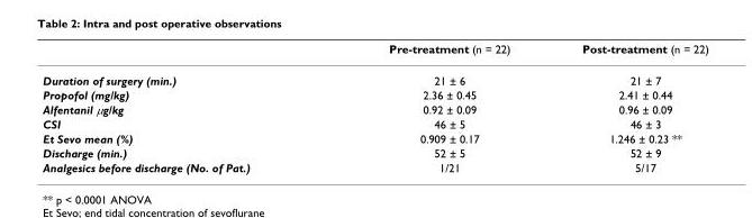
<table><thead><tr><td></td><td>Pre-treatment (n = 22)</td><td>Post-treatment (n = 22)</td></tr></thead><tbody><tr><td>Duration of surgery (min.)</td><td>21 ± 6</td><td>21 ± 7</td></tr><tr><td>Propofol (mg/kg)</td><td>2.36 ± 0.45</td><td>2.41 ± 0.44</td></tr><tr><td>Alfentanil μg/kg</td><td>0.92 ± 0.09</td><td>0.96 ± 0.09</td></tr><tr><td>CSI</td><td>46 ± 5</td><td>46 ± 3</td></tr><tr><td>Et Sevo mean (%)</td><td>0.909 ± 0.17</td><td>1.246 ± 0.23 **</td></tr><tr><td>Discharge (min.)</td><td>52 ± 5</td><td>52 ± 9</td></tr><tr><td>Analgesics before discharge (No. of Pat.)</td><td>1/21</td><td>5/17</td></tr></tbody></table>